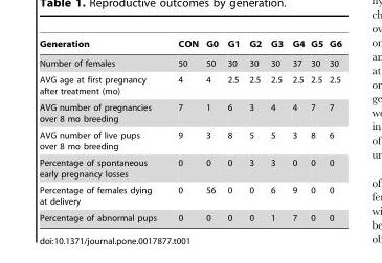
<table><thead><tr><td>Generation</td><td>CON</td><td>G0</td><td>G1</td><td>G2</td><td>G3</td><td>G4</td><td>G5</td><td>G6</td></tr></thead><tbody><tr><td>Number of females</td><td>50</td><td>50</td><td>30</td><td>30</td><td>30</td><td>37</td><td>30</td><td>30</td></tr><tr><td>AVG age at first pregnancy after treatment (mo)</td><td>4</td><td>4</td><td>2.5</td><td>2.5</td><td>2.5</td><td>2.5</td><td>2.5</td><td>2.5</td></tr><tr><td>AVG number of pregnancies over 8 mo breeding</td><td>7</td><td>1</td><td>6</td><td>3</td><td>4</td><td>4</td><td>7</td><td>7</td></tr><tr><td>AVG number of live pups over 8 mo breeding</td><td>9</td><td>3</td><td>8</td><td>5</td><td>5</td><td>3</td><td>8</td><td>6</td></tr><tr><td>Percentage of spontaneous early pregnancy losses</td><td>0</td><td>0</td><td>0</td><td>3</td><td>3</td><td>0</td><td>0</td><td>0</td></tr><tr><td>Percentage of females dying at delivery</td><td>0</td><td>56</td><td>0</td><td>0</td><td>6</td><td>9</td><td>0</td><td>0</td></tr><tr><td>Percentage of abnormal pups</td><td>0</td><td>0</td><td>0</td><td>0</td><td>1</td><td>7</td><td>0</td><td>0</td></tr></tbody></table>